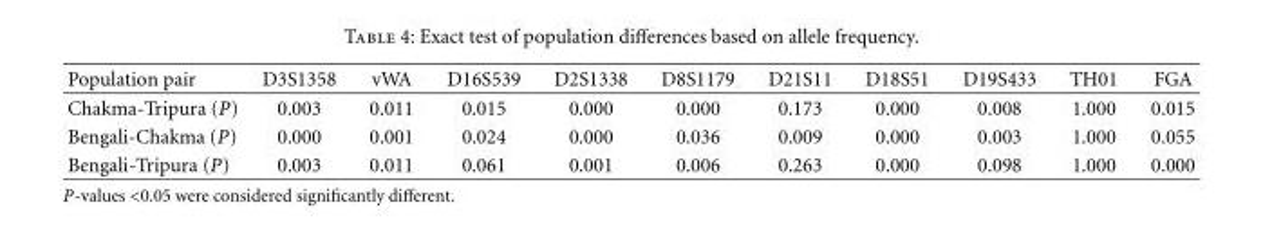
<table><thead><tr><td>Population pair</td><td>D3S1358</td><td>vWA</td><td>D16S539</td><td>D2S1338</td><td>D8S1179</td><td>D21S11</td><td>D18S51</td><td>D19S433</td><td>TH01</td><td>FGA</td></tr></thead><tbody><tr><td>Chakma-Tripura (P)</td><td>0.003</td><td>0.011</td><td>0.015</td><td>0.000</td><td>0.000</td><td>0.173</td><td>0.000</td><td>0.008</td><td>1.000</td><td>0.015</td></tr><tr><td>Bengali-Chakma (P)</td><td>0.000</td><td>0.001</td><td>0.024</td><td>0.000</td><td>0.036</td><td>0.009</td><td>0.000</td><td>0.003</td><td>1.000</td><td>0.055</td></tr><tr><td>Bengali-Tripura (P)</td><td>0.003</td><td>0.011</td><td>0.061</td><td>0.001</td><td>0.006</td><td>0.263</td><td>0.000</td><td>0.098</td><td>1.000</td><td>0.000</td></tr></tbody></table>